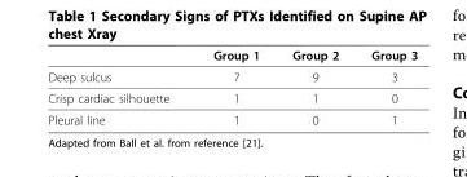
<table><thead><tr><td></td><td>Group 1</td><td>Group 2</td><td>Group 3</td></tr></thead><tbody><tr><td>Deep sulcus</td><td>7</td><td>9</td><td>3</td></tr><tr><td>Crisp cardiac silhouette</td><td>1</td><td>1</td><td>0</td></tr><tr><td>Pleural line</td><td>1</td><td>0</td><td>1</td></tr></tbody></table>